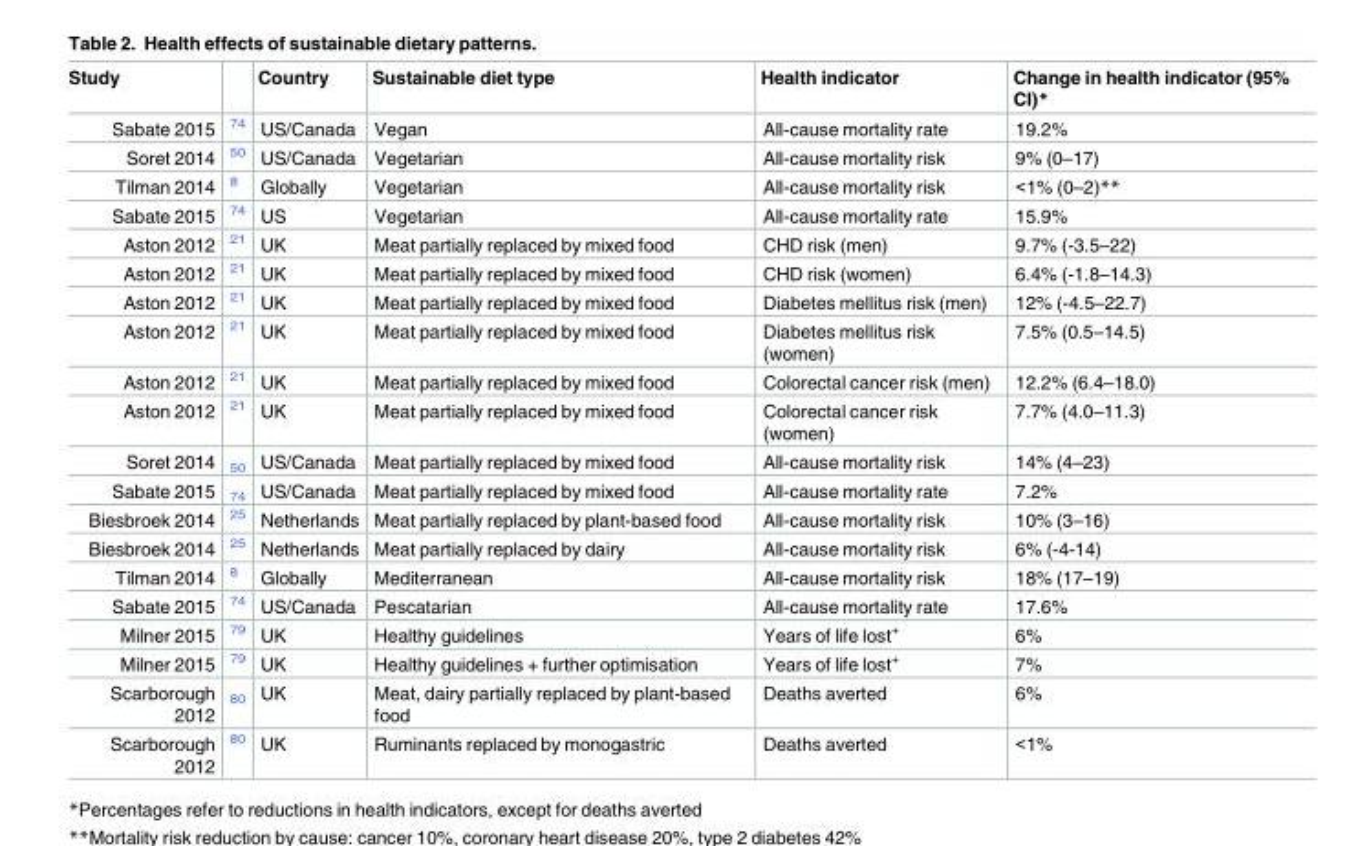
<table><thead><tr><td>Study</td><td></td><td>Country</td><td>Sustainable diet type</td><td>Health indicator</td><td>Change in health indicator (95% CI)*</td></tr></thead><tbody><tr><td>Sabate 2015</td><td><sup>74</sup></td><td>US/Canada</td><td>Vegan</td><td>All-cause mortality rate</td><td>19.2%</td></tr><tr><td>Soret 2014</td><td><sup>50</sup></td><td>US/Canada</td><td>Vegetarian</td><td>All-cause mortality risk</td><td>9% (0–17)</td></tr><tr><td>Tilman 2014</td><td><sup>8</sup></td><td>Globally</td><td>Vegetarian</td><td>All-cause mortality risk</td><td>&lt;1% (0–2)**</td></tr><tr><td>Sabate 2015</td><td><sup>74</sup></td><td>US</td><td>Vegetarian</td><td>All-cause mortality rate</td><td>15.9%</td></tr><tr><td>Aston 2012</td><td><sup>21</sup></td><td>UK</td><td>Meat partially replaced by mixed food</td><td>CHD risk (men)</td><td>9.7% (-3.5–22)</td></tr><tr><td>Aston 2012</td><td><sup>21</sup></td><td>UK</td><td>Meat partially replaced by mixed food</td><td>CHD risk (women)</td><td>6.4% (-1.8–14.3)</td></tr><tr><td>Aston 2012</td><td><sup>21</sup></td><td>UK</td><td>Meat partially replaced by mixed food</td><td>Diabetes mellitus risk (men)</td><td>12% (-4.5–22.7)</td></tr><tr><td>Aston 2012</td><td><sup>21</sup></td><td>UK</td><td>Meat partially replaced by mixed food</td><td>Diabetes mellitus risk (women)</td><td>7.5% (0.5–14.5)</td></tr><tr><td>Aston 2012</td><td><sup>21</sup></td><td>UK</td><td>Meat partially replaced by mixed food</td><td>Colorectal cancer risk (men)</td><td>12.2% (6.4–18.0)</td></tr><tr><td>Aston 2012</td><td><sup>21</sup></td><td>UK</td><td>Meat partially replaced by mixed food</td><td>Colorectal cancer risk (women)</td><td>7.7% (4.0–11.3)</td></tr><tr><td>Soret 2014</td><td><sub>50</sub></td><td>US/Canada</td><td>Meat partially replaced by mixed food</td><td>All-cause mortality risk</td><td>14% (4–23)</td></tr><tr><td>Sabate 2015</td><td><sub>74</sub></td><td>US/Canada</td><td>Meat partially replaced by mixed food</td><td>All-cause mortality rate</td><td>7.2%</td></tr><tr><td>Biesbroek 2014</td><td><sup>25</sup></td><td>Netherlands</td><td>Meat partially replaced by plant-based food</td><td>All-cause mortality risk</td><td>10% (3–16)</td></tr><tr><td>Biesbroek 2014</td><td><sup>25</sup></td><td>Netherlands</td><td>Meat partially replaced by dairy</td><td>All-cause mortality risk</td><td>6% (-4-14)</td></tr><tr><td>Tilman 2014</td><td><sup>8</sup></td><td>Globally</td><td>Mediterranean</td><td>All-cause mortality risk</td><td>18% (17–19)</td></tr><tr><td>Sabate 2015</td><td><sup>74</sup></td><td>US/Canada</td><td>Pescatarian</td><td>All-cause mortality rate</td><td>17.6%</td></tr><tr><td>Milner 2015</td><td><sup>79</sup></td><td>UK</td><td>Healthy guidelines</td><td>Years of life lost<sup>+</sup></td><td>6%</td></tr><tr><td>Milner 2015</td><td><sup>79</sup></td><td>UK</td><td>Healthy guidelines + further optimisation</td><td>Years of life lost<sup>+</sup></td><td>7%</td></tr><tr><td>Scarborough 2012</td><td><sub>80</sub></td><td>UK</td><td>Meat, dairy partially replaced by plant-based food</td><td>Deaths averted</td><td>6%</td></tr><tr><td>Scarborough 2012</td><td><sup>80</sup></td><td>UK</td><td>Ruminants replaced by monogastric</td><td>Deaths averted</td><td>&lt;1%</td></tr></tbody></table>